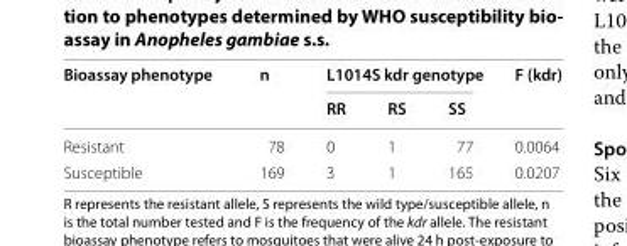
<table><thead><tr><td rowspan="2">Bioassay phenotype</td><td rowspan="2">n</td><td colspan="3">L1014S kdr genotype</td><td rowspan="2">F (kdr)</td></tr><tr><td>RR</td><td>RS</td><td>SS</td></tr></thead><tbody><tr><td>Resistant</td><td>78</td><td>0</td><td>1</td><td>77</td><td>0.0064</td></tr><tr><td>Susceptible</td><td>169</td><td>3</td><td>1</td><td>165</td><td>0.0207</td></tr></tbody></table>